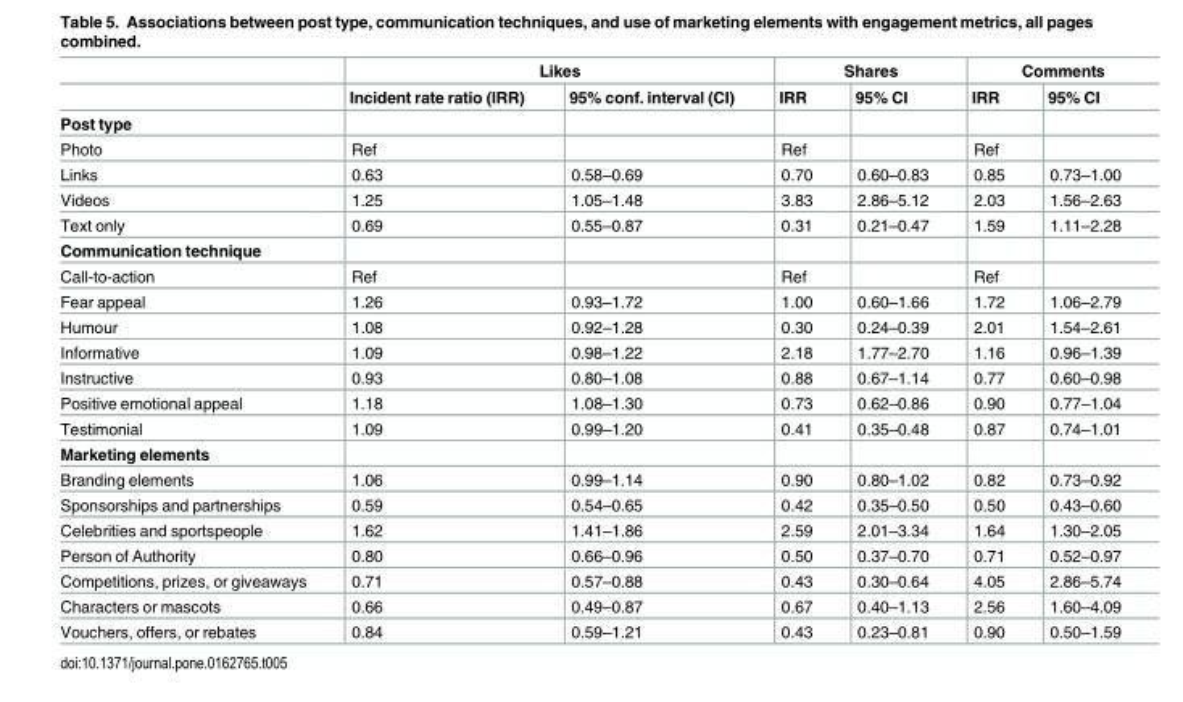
<table><thead><tr><td rowspan="2"></td><td colspan="2">Likes</td><td colspan="2">Shares</td><td colspan="2">Comments</td></tr><tr><td>Incident rate ratio (IRR)</td><td>95% conf. interval (CI)</td><td>IRR</td><td>95% CI</td><td>IRR</td><td>95% CI</td></tr></thead><tbody><tr><td colspan="7">Post type</td></tr><tr><td>Photo</td><td>Ref</td><td></td><td>Ref</td><td></td><td>Ref</td><td></td></tr><tr><td>Links</td><td>0.63</td><td>0.58–0.69</td><td>0.70</td><td>0.60–0.83</td><td>0.85</td><td>0.73–1.00</td></tr><tr><td>Videos</td><td>1.25</td><td>1.05–1.48</td><td>3.83</td><td>2.86–5.12</td><td>2.03</td><td>1.56–2.63</td></tr><tr><td>Text only</td><td>0.69</td><td>0.55–0.87</td><td>0.31</td><td>0.21–0.47</td><td>1.59</td><td>1.11–2.28</td></tr><tr><td colspan="7">Communication technique</td></tr><tr><td>Call-to-action</td><td>Ref</td><td></td><td>Ref</td><td></td><td>Ref</td><td></td></tr><tr><td>Fear appeal</td><td>1.26</td><td>0.93–1.72</td><td>1.00</td><td>0.60–1.66</td><td>1.72</td><td>1.06–2.79</td></tr><tr><td>Humour</td><td>1.08</td><td>0.92–1.28</td><td>0.30</td><td>0.24–0.39</td><td>2.01</td><td>1.54–2.61</td></tr><tr><td>Informative</td><td>1.09</td><td>0.98–1.22</td><td>2.18</td><td>1.77–2.70</td><td>1.16</td><td>0.96–1.39</td></tr><tr><td>Instructive</td><td>0.93</td><td>0.80–1.08</td><td>0.88</td><td>0.67–1.14</td><td>0.77</td><td>0.60–0.98</td></tr><tr><td>Positive emotional appeal</td><td>1.18</td><td>1.08–1.30</td><td>0.73</td><td>0.62–0.86</td><td>0.90</td><td>0.77–1.04</td></tr><tr><td>Testimonial</td><td>1.09</td><td>0.99–1.20</td><td>0.41</td><td>0.35–0.48</td><td>0.87</td><td>0.74–1.01</td></tr><tr><td colspan="7">Marketing elements</td></tr><tr><td>Branding elements</td><td>1.06</td><td>0.99–1.14</td><td>0.90</td><td>0.80–1.02</td><td>0.82</td><td>0.73–0.92</td></tr><tr><td>Sponsorships and partnerships</td><td>0.59</td><td>0.54–0.65</td><td>0.42</td><td>0.35–0.50</td><td>0.50</td><td>0.43–0.60</td></tr><tr><td>Celebrities and sportspeople</td><td>1.62</td><td>1.41–1.86</td><td>2.59</td><td>2.01–3.34</td><td>1.64</td><td>1.30–2.05</td></tr><tr><td>Person of Authority</td><td>0.80</td><td>0.66–0.96</td><td>0.50</td><td>0.37–0.70</td><td>0.71</td><td>0.52–0.97</td></tr><tr><td>Competitions, prizes, or giveaways</td><td>0.71</td><td>0.57–0.88</td><td>0.43</td><td>0.30–0.64</td><td>4.05</td><td>2.86–5.74</td></tr><tr><td>Characters or mascots</td><td>0.66</td><td>0.49–0.87</td><td>0.67</td><td>0.40–1.13</td><td>2.56</td><td>1.60–4.09</td></tr><tr><td>Vouchers, offers, or rebates</td><td>0.84</td><td>0.59–1.21</td><td>0.43</td><td>0.23–0.81</td><td>0.90</td><td>0.50–1.59</td></tr></tbody></table>